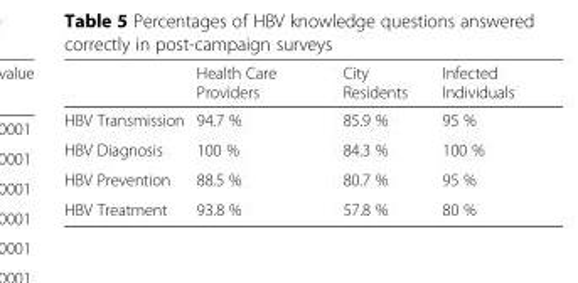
<table><thead><tr><td></td><td>Health Care Providers</td><td>City Residents</td><td>Infected Individuals</td></tr></thead><tbody><tr><td>HBV Transmission</td><td>94.7 %</td><td>85.9 %</td><td>95 %</td></tr><tr><td>HBV Diagnosis</td><td>100 %</td><td>84.3 %</td><td>100 %</td></tr><tr><td>HBV Prevention</td><td>88.5 %</td><td>80.7 %</td><td>95 %</td></tr><tr><td>HBV Treatment</td><td>93.8 %</td><td>57.8 %</td><td>80 %</td></tr></tbody></table>